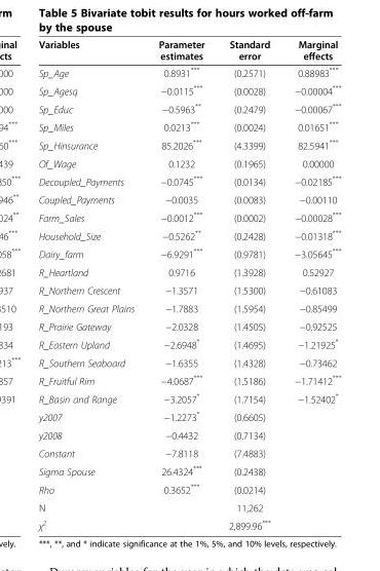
<table><thead><tr><td>Variables</td><td>Parameter estimates</td><td>Standard error</td><td>Marginal effects</td></tr></thead><tbody><tr><td>Sp_Age</td><td>0.8931***</td><td>(0.2571)</td><td>0.88983***</td></tr><tr><td>Sp_Agesq</td><td>−0.0115***</td><td>(0.0028)</td><td>−0.00004***</td></tr><tr><td>Sp_Educ</td><td>−0.5963**</td><td>(0.2479)</td><td>−0.00067***</td></tr><tr><td>Sp_Miles</td><td>0.0213***</td><td>(0.0024)</td><td>0.01651***</td></tr><tr><td>Sp_Hinsurance</td><td>85.2026***</td><td>(4.3399)</td><td>82.5941***</td></tr><tr><td>Of_Wage</td><td>0.1232</td><td>(0.1965)</td><td>0.00000</td></tr><tr><td>Decoupled_Payments</td><td>−0.0745***</td><td>(0.0134)</td><td>−0.02185***</td></tr><tr><td>Coupled_Payments</td><td>−0.0035</td><td>(0.0083)</td><td>−0.00110</td></tr><tr><td>Farm_Sales</td><td>−0.0012***</td><td>(0.0002)</td><td>−0.00028***</td></tr><tr><td>Household_Size</td><td>−0.5262**</td><td>(0.2428)</td><td>−0.01318***</td></tr><tr><td>Dairy_farm</td><td>−6.9291***</td><td>(0.9781)</td><td>−3.05645***</td></tr><tr><td>R_Heartland</td><td>0.9716</td><td>(1.3928)</td><td>0.52927</td></tr><tr><td>R_Northern Crescent</td><td>−1.3571</td><td>(1.5300)</td><td>−0.61083</td></tr><tr><td>R_Northern Great Plains</td><td>−1.7883</td><td>(1.5954)</td><td>−0.85499</td></tr><tr><td>R_Prairie Gateway</td><td>−2.0328</td><td>(1.4505)</td><td>−0.92525</td></tr><tr><td>R_Eastern Upland</td><td>−2.6948*</td><td>(1.4695)</td><td>−1.21925*</td></tr><tr><td>R_Southern Seaboard</td><td>−1.6355</td><td>(1.4328)</td><td>−0.73462</td></tr><tr><td>R_Fruitful Rim</td><td>−4.0687***</td><td>(1.5186)</td><td>−1.71412***</td></tr><tr><td>R_Basin and Range</td><td>−3.2057*</td><td>(1.7154)</td><td>−1.52402*</td></tr><tr><td>y2007</td><td>−1.2273*</td><td>(0.6605)</td><td></td></tr><tr><td>y2008</td><td>−0.4432</td><td>(0.7134)</td><td></td></tr><tr><td>Constant</td><td>−7.8118</td><td>(7.4883)</td><td></td></tr><tr><td>Sigma Spouse</td><td>26.4324***</td><td>(0.2438)</td><td></td></tr><tr><td>Rho</td><td>0.3652***</td><td>(0.0214)</td><td></td></tr><tr><td>N</td><td></td><td>11,262</td><td></td></tr><tr><td>χ<sup>2</sup></td><td></td><td>2,899.96***</td><td></td></tr></tbody></table>